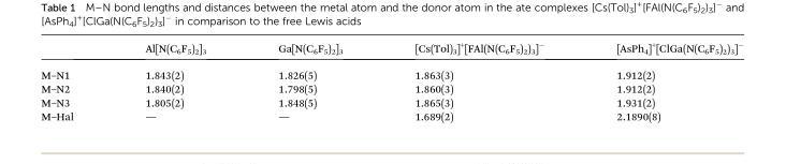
<table><thead><tr><td></td><td>Al[N(C<sub>6</sub>F<sub>5</sub>)<sub>2</sub>]<sub>3</sub></td><td>Ga[N(C<sub>6</sub>F<sub>5</sub>)<sub>2</sub>]<sub>3</sub></td><td>[Cs(Tol)<sub>3</sub>]<sup>+</sup>[FAl(N(C<sub>6</sub>F<sub>5</sub>)<sub>2</sub>)<sub>3</sub>]<sup>–</sup></td><td>[AsPh<sub>4</sub>]<sup>+</sup>[ClGa(N(C<sub>6</sub>F<sub>5</sub>)<sub>2</sub>)<sub>3</sub>]<sup>–</sup></td></tr></thead><tbody><tr><td>M–N1</td><td>1.843(2)</td><td>1.826(5)</td><td>1.863(3)</td><td>1.912(2)</td></tr><tr><td>M–N2</td><td>1.840(2)</td><td>1.798(5)</td><td>1.860(3)</td><td>1.912(2)</td></tr><tr><td>M–N3</td><td>1.805(2)</td><td>1.848(5)</td><td>1.865(3)</td><td>1.931(2)</td></tr><tr><td>M–Hal</td><td>—</td><td>—</td><td>1.689(2)</td><td>2.1890(8)</td></tr></tbody></table>